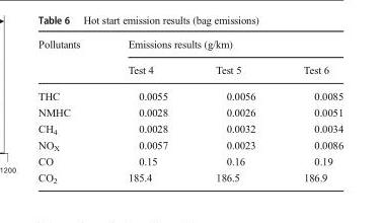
<table><thead><tr><td rowspan="2">Pollutants</td><td colspan="3">Emissions results (g/km)</td></tr><tr><td>Test 4</td><td>Test 5</td><td>Test 6</td></tr></thead><tbody><tr><td>THC</td><td>0.0055</td><td>0.0056</td><td>0.0085</td></tr><tr><td>NMHC</td><td>0.0028</td><td>0.0026</td><td>0.0051</td></tr><tr><td>CH<sub>4</sub></td><td>0.0028</td><td>0.0032</td><td>0.0034</td></tr><tr><td>NO<sub>X</sub></td><td>0.0057</td><td>0.0023</td><td>0.0086</td></tr><tr><td>CO</td><td>0.15</td><td>0.16</td><td>0.19</td></tr><tr><td>CO<sub>2</sub></td><td>185.4</td><td>186.5</td><td>186.9</td></tr></tbody></table>